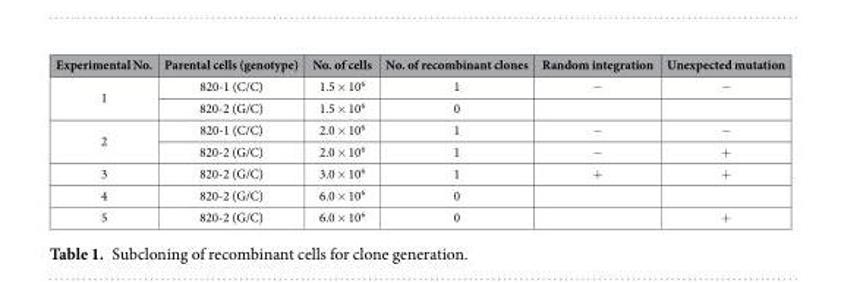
<table><thead><tr><td>Experimental No.</td><td>Parental cells (genotype)</td><td>No. of cells</td><td>No. of recombinant clones</td><td>Random integration</td><td>Unexpected mutation</td></tr></thead><tbody><tr><td rowspan="2">1</td><td>820-1 (C/C)</td><td>1.5 × 10<sup>6</sup></td><td>1</td><td>−</td><td>−</td></tr><tr><td>820-2 (G/C)</td><td>1.5 × 10<sup>6</sup></td><td>0</td><td></td><td></td></tr><tr><td rowspan="2">2</td><td>820-1 (C/C)</td><td>2.0 × 10<sup>6</sup></td><td>1</td><td>−</td><td>−</td></tr><tr><td>820-2 (G/C)</td><td>2.0 × 10<sup>6</sup></td><td>1</td><td>−</td><td>+</td></tr><tr><td>3</td><td>820-2 (G/C)</td><td>3.0 × 10<sup>6</sup></td><td>1</td><td>+</td><td>+</td></tr><tr><td>4</td><td>820-2 (G/C)</td><td>6.0 × 10<sup>6</sup></td><td>0</td><td></td><td></td></tr><tr><td>5</td><td>820-2 (G/C)</td><td>6.0 × 10<sup>6</sup></td><td>0</td><td></td><td>+</td></tr></tbody></table>